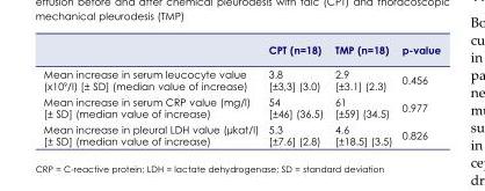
<table><thead><tr><td></td><td>CPT (n=18)</td><td>TMP (n=18)</td><td>p-value</td></tr></thead><tbody><tr><td>Mean increase in serum leucocyte value (x10<sup>9</sup>/l) [± SD] (median value of increase)</td><td>3.8 [±3,3] (3.0)</td><td>2.9 [±3.1] (2.3)</td><td>0.456</td></tr><tr><td>Mean increase in serum CRP value (mg/l) [± SD] (median value of increase)</td><td>54 [±46] (36.5)</td><td>61 [±59] (34.5)</td><td>0.977</td></tr><tr><td>Mean increase in pleural LDH value (μkat/l) [± SD] (median value of increase)</td><td>5.3 [±7.6] (2.8)</td><td>4.6 [±18.5] (3.5)</td><td>0.826</td></tr></tbody></table>